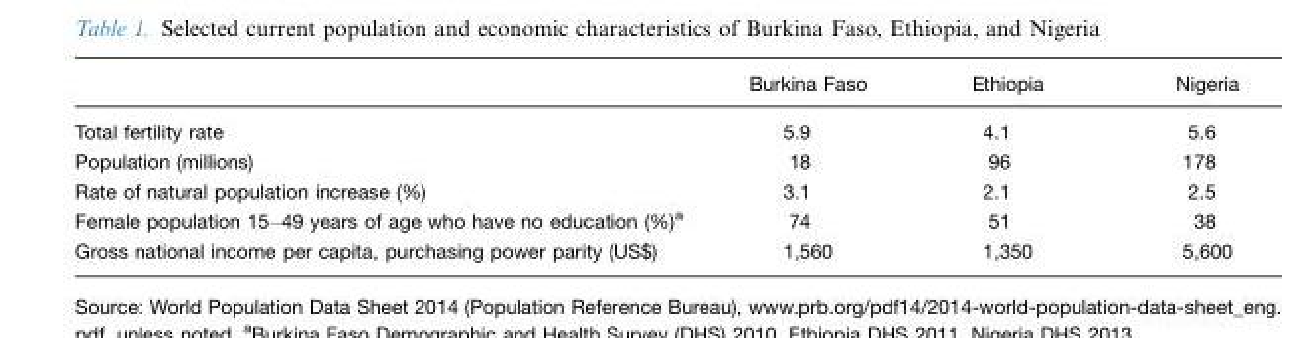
<table><thead><tr><td></td><td>Burkina Faso</td><td>Ethiopia</td><td>Nigeria</td></tr></thead><tbody><tr><td>Total fertility rate</td><td>5.9</td><td>4.1</td><td>5.6</td></tr><tr><td>Population (millions)</td><td>18</td><td>96</td><td>178</td></tr><tr><td>Rate of natural population increase (%)</td><td>3.1</td><td>2.1</td><td>2.5</td></tr><tr><td>Female population 15–49 years of age who have no education (%)<sup>a</sup></td><td>74</td><td>51</td><td>38</td></tr><tr><td>Gross national income per capita, purchasing power parity (US$)</td><td>1,560</td><td>1,350</td><td>5,600</td></tr></tbody></table>